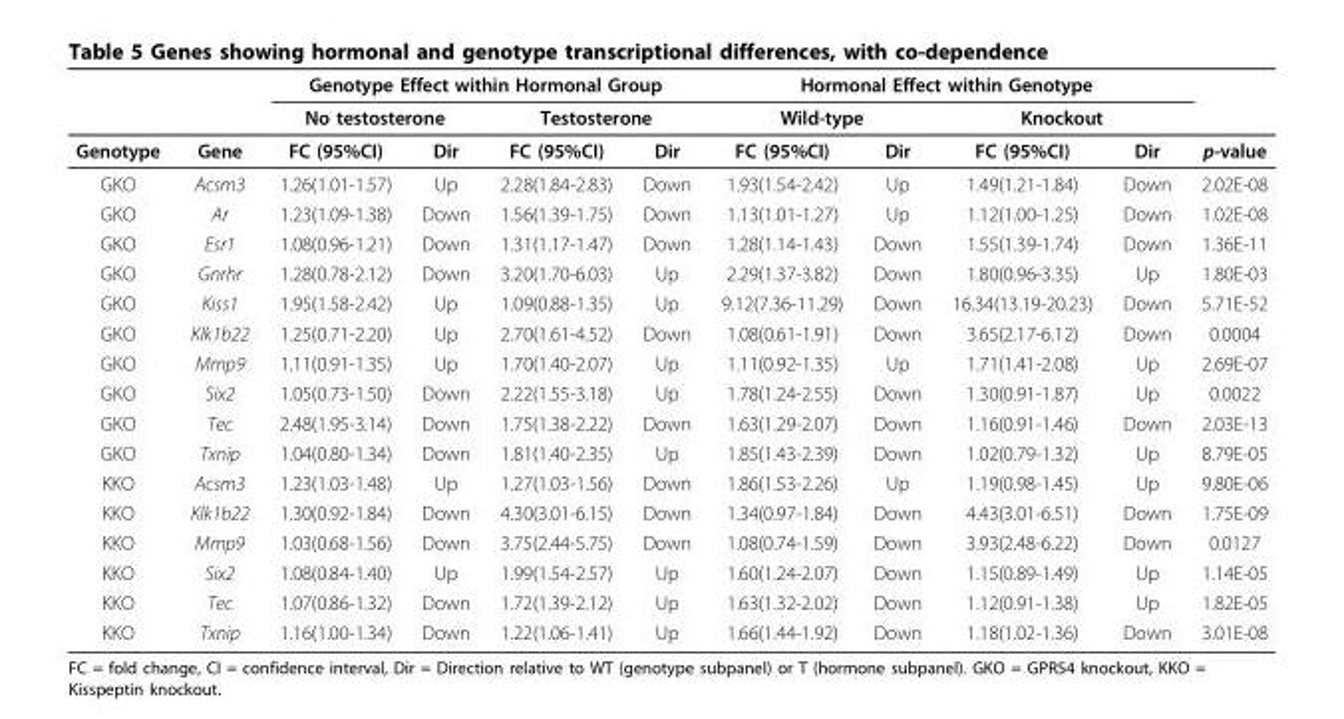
<table><thead><tr><td rowspan="3">Genotype</td><td rowspan="3">Gene</td><td colspan="4">Genotype Effect within Hormonal Group</td><td colspan="4">Hormonal Effect within Genotype</td><td rowspan="3">p-value</td></tr><tr><td colspan="2">No testosterone</td><td colspan="2">Testosterone</td><td colspan="2">Wild-type</td><td colspan="2">Knockout</td></tr><tr><td>FC (95%CI)</td><td>Dir</td><td>FC (95%CI)</td><td>Dir</td><td>FC (95%CI)</td><td>Dir</td><td>FC (95%CI)</td><td>Dir</td></tr></thead><tbody><tr><td>GKO</td><td>Acsm3</td><td>1.26(1.01-1.57)</td><td>Up</td><td>2.28(1.84-2.83)</td><td>Down</td><td>1.93(1.54-2.42)</td><td>Up</td><td>1.49(1.21-1.84)</td><td>Down</td><td>2.02E-08</td></tr><tr><td>GKO</td><td>Ar</td><td>1.23(1.09-1.38)</td><td>Down</td><td>1.56(1.39-1.75)</td><td>Down</td><td>1.13(1.01-1.27)</td><td>Up</td><td>1.12(1.00-1.25)</td><td>Down</td><td>1.02E-08</td></tr><tr><td>GKO</td><td>Esr1</td><td>1.08(0.96-1.21)</td><td>Down</td><td>1.31(1.17-1.47)</td><td>Down</td><td>1.28(1.14-1.43)</td><td>Down</td><td>1.55(1.39-1.74)</td><td>Down</td><td>1.36E-11</td></tr><tr><td>GKO</td><td>Gnrhr</td><td>1.28(0.78-2.12)</td><td>Down</td><td>3.20(1.70-6.03)</td><td>Up</td><td>2.29(1.37-3.82)</td><td>Down</td><td>1.80(0.96-3.35)</td><td>Up</td><td>1.80E-03</td></tr><tr><td>GKO</td><td>Kiss1</td><td>1.95(1.58-2.42)</td><td>Up</td><td>1.09(0.88-1.35)</td><td>Up</td><td>9.12(7.36-11.29)</td><td>Down</td><td>16.34(13.19-20.23)</td><td>Down</td><td>5.71E-52</td></tr><tr><td>GKO</td><td>Klk1b22</td><td>1.25(0.71-2.20)</td><td>Up</td><td>2.70(1.61-4.52)</td><td>Down</td><td>1.08(0.61-1.91)</td><td>Down</td><td>3.65(2.17-6.12)</td><td>Down</td><td>0.0004</td></tr><tr><td>GKO</td><td>Mmp9</td><td>1.11(0.91-1.35)</td><td>Up</td><td>1.70(1.40-2.07)</td><td>Up</td><td>1.11(0.92-1.35)</td><td>Up</td><td>1.71(1.41-2.08)</td><td>Up</td><td>2.69E-07</td></tr><tr><td>GKO</td><td>Six2</td><td>1.05(0.73-1.50)</td><td>Down</td><td>2.22(1.55-3.18)</td><td>Up</td><td>1.78(1.24-2.55)</td><td>Down</td><td>1.30(0.91-1.87)</td><td>Up</td><td>0.0022</td></tr><tr><td>GKO</td><td>Tec</td><td>2.48(1.95-3.14)</td><td>Down</td><td>1.75(1.38-2.22)</td><td>Down</td><td>1.63(1.29-2.07)</td><td>Down</td><td>1.16(0.91-1.46)</td><td>Down</td><td>2.03E-13</td></tr><tr><td>GKO</td><td>Txnip</td><td>1.04(0.80-1.34)</td><td>Down</td><td>1.81(1.40-2.35)</td><td>Up</td><td>1.85(1.43-2.39)</td><td>Down</td><td>1.02(0.79-1.32)</td><td>Up</td><td>8.79E-05</td></tr><tr><td>KKO</td><td>Acsm3</td><td>1.23(1.03-1.48)</td><td>Up</td><td>1.27(1.03-1.56)</td><td>Down</td><td>1.86(1.53-2.26)</td><td>Up</td><td>1.19(0.98-1.45)</td><td>Up</td><td>9.80E-06</td></tr><tr><td>KKO</td><td>Klk1b22</td><td>1.30(0.92-1.84)</td><td>Down</td><td>4.30(3.01-6.15)</td><td>Down</td><td>1.34(0.97-1.84)</td><td>Down</td><td>4.43(3.01-6.51)</td><td>Down</td><td>1.75E-09</td></tr><tr><td>KKO</td><td>Mmp9</td><td>1.03(0.68-1.56)</td><td>Down</td><td>3.75(2.44-5.75)</td><td>Down</td><td>1.08(0.74-1.59)</td><td>Down</td><td>3.93(2.48-6.22)</td><td>Down</td><td>0.0127</td></tr><tr><td>KKO</td><td>Six2</td><td>1.08(0.84-1.40)</td><td>Up</td><td>1.99(1.54-2.57)</td><td>Up</td><td>1.60(1.24-2.07)</td><td>Down</td><td>1.15(0.89-1.49)</td><td>Up</td><td>1.14E-05</td></tr><tr><td>KKO</td><td>Tec</td><td>1.07(0.86-1.32)</td><td>Down</td><td>1.72(1.39-2.12)</td><td>Up</td><td>1.63(1.32-2.02)</td><td>Down</td><td>1.12(0.91-1.38)</td><td>Up</td><td>1.82E-05</td></tr><tr><td>KKO</td><td>Txnip</td><td>1.16(1.00-1.34)</td><td>Down</td><td>1.22(1.06-1.41)</td><td>Up</td><td>1.66(1.44-1.92)</td><td>Down</td><td>1.18(1.02-1.36)</td><td>Down</td><td>3.01E-08</td></tr></tbody></table>